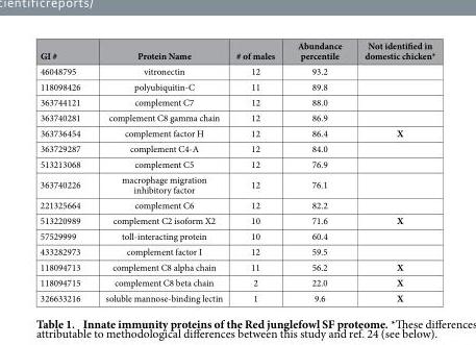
<table><thead><tr><td>GI #</td><td>Protein Name</td><td># of males</td><td>Abundance percentile</td><td>Not identified in domestic chicken*</td></tr></thead><tbody><tr><td>46048795</td><td>vitronectin</td><td>12</td><td>93.2</td><td></td></tr><tr><td>118098426</td><td>polyubiquitin-C</td><td>11</td><td>89.8</td><td></td></tr><tr><td>363744121</td><td>complement C7</td><td>12</td><td>88.0</td><td></td></tr><tr><td>363740281</td><td>complement C8 gamma chain</td><td>12</td><td>86.9</td><td></td></tr><tr><td>363736454</td><td>complement factor H</td><td>12</td><td>86.4</td><td>X</td></tr><tr><td>363729287</td><td>complement C4-A</td><td>12</td><td>84.0</td><td></td></tr><tr><td>513213068</td><td>complement C5</td><td>12</td><td>76.9</td><td></td></tr><tr><td>363740226</td><td>macrophage migration inhibitory factor</td><td>12</td><td>76.1</td><td></td></tr><tr><td>221325664</td><td>complement C6</td><td>12</td><td>82.2</td><td></td></tr><tr><td>513220989</td><td>complement C2 isoform X2</td><td>10</td><td>71.6</td><td>X</td></tr><tr><td>57529999</td><td>toll-interacting protein</td><td>10</td><td>60.4</td><td></td></tr><tr><td>433282973</td><td>complement factor I</td><td>12</td><td>59.5</td><td></td></tr><tr><td>118094713</td><td>complement C8 alpha chain</td><td>11</td><td>56.2</td><td>X</td></tr><tr><td>118094715</td><td>complement C8 beta chain</td><td>2</td><td>22.0</td><td>X</td></tr><tr><td>326633216</td><td>soluble mannose-binding lectin</td><td>1</td><td>9.6</td><td>X</td></tr></tbody></table>